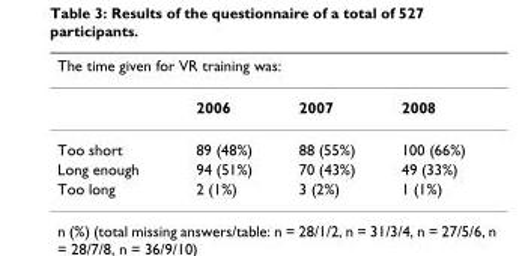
<table><thead><tr><td colspan="4">The time given for VR training was:</td></tr><tr><td></td><td>2006</td><td>2007</td><td>2008</td></tr></thead><tbody><tr><td>Too short</td><td>89 (48%)</td><td>88 (55%)</td><td>100 (66%)</td></tr><tr><td>Long enough</td><td>94 (51%)</td><td>70 (43%)</td><td>49 (33%)</td></tr><tr><td>Too long</td><td>2 (1%)</td><td>3 (2%)</td><td>1 (1%)</td></tr></tbody></table>